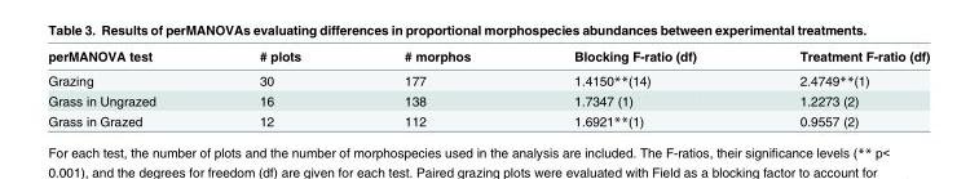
<table><thead><tr><td>perMANOVA test</td><td># plots</td><td># morphos</td><td>Blocking F-ratio (df)</td><td>Treatment F-ratio (df)</td></tr></thead><tbody><tr><td>Grazing</td><td>30</td><td>177</td><td>1.4150**(14)</td><td>2.4749**(1)</td></tr><tr><td>Grass in Ungrazed</td><td>16</td><td>138</td><td>1.7347 (1)</td><td>1.2273 (2)</td></tr><tr><td>Grass in Grazed</td><td>12</td><td>112</td><td>1.6921**(1)</td><td>0.9557 (2)</td></tr></tbody></table>